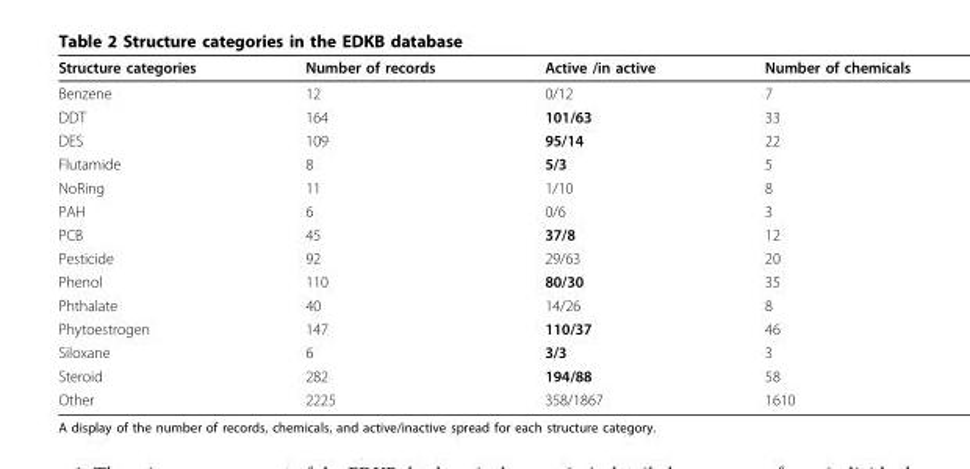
<table><thead><tr><td>Structure categories</td><td>Number of records</td><td>Active /in active</td><td>Number of chemicals</td></tr></thead><tbody><tr><td>Benzene</td><td>12</td><td>0/12</td><td>7</td></tr><tr><td>DDT</td><td>164</td><td>101/63</td><td>33</td></tr><tr><td>DES</td><td>109</td><td>95/14</td><td>22</td></tr><tr><td>Flutamide</td><td>8</td><td>5/3</td><td>5</td></tr><tr><td>NoRing</td><td>11</td><td>1/10</td><td>8</td></tr><tr><td>PAH</td><td>6</td><td>0/6</td><td>3</td></tr><tr><td>PCB</td><td>45</td><td>37/8</td><td>12</td></tr><tr><td>Pesticide</td><td>92</td><td>29/63</td><td>20</td></tr><tr><td>Phenol</td><td>110</td><td>80/30</td><td>35</td></tr><tr><td>Phthalate</td><td>40</td><td>14/26</td><td>8</td></tr><tr><td>Phytoestrogen</td><td>147</td><td>110/37</td><td>46</td></tr><tr><td>Siloxane</td><td>6</td><td>3/3</td><td>3</td></tr><tr><td>Steroid</td><td>282</td><td>194/88</td><td>58</td></tr><tr><td>Other</td><td>2225</td><td>358/1867</td><td>1610</td></tr></tbody></table>